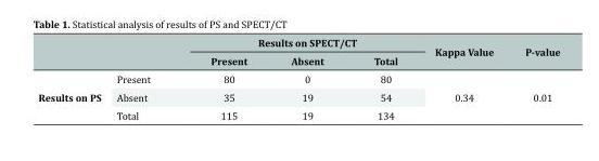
<table><thead><tr><td rowspan="2"></td><td rowspan="2"></td><td colspan="3">Results on SPECT/CT</td><td rowspan="2">Kappa Value</td><td rowspan="2">P-value</td></tr><tr><td>Present</td><td>Absent</td><td>Total</td></tr></thead><tbody><tr><td rowspan="3">Results on PS</td><td>Present</td><td>80</td><td>0</td><td>80</td><td rowspan="3">0.34</td><td rowspan="3">0.01</td></tr><tr><td>Absent</td><td>35</td><td>19</td><td>54</td></tr><tr><td>Total</td><td>115</td><td>19</td><td>134</td></tr></tbody></table>